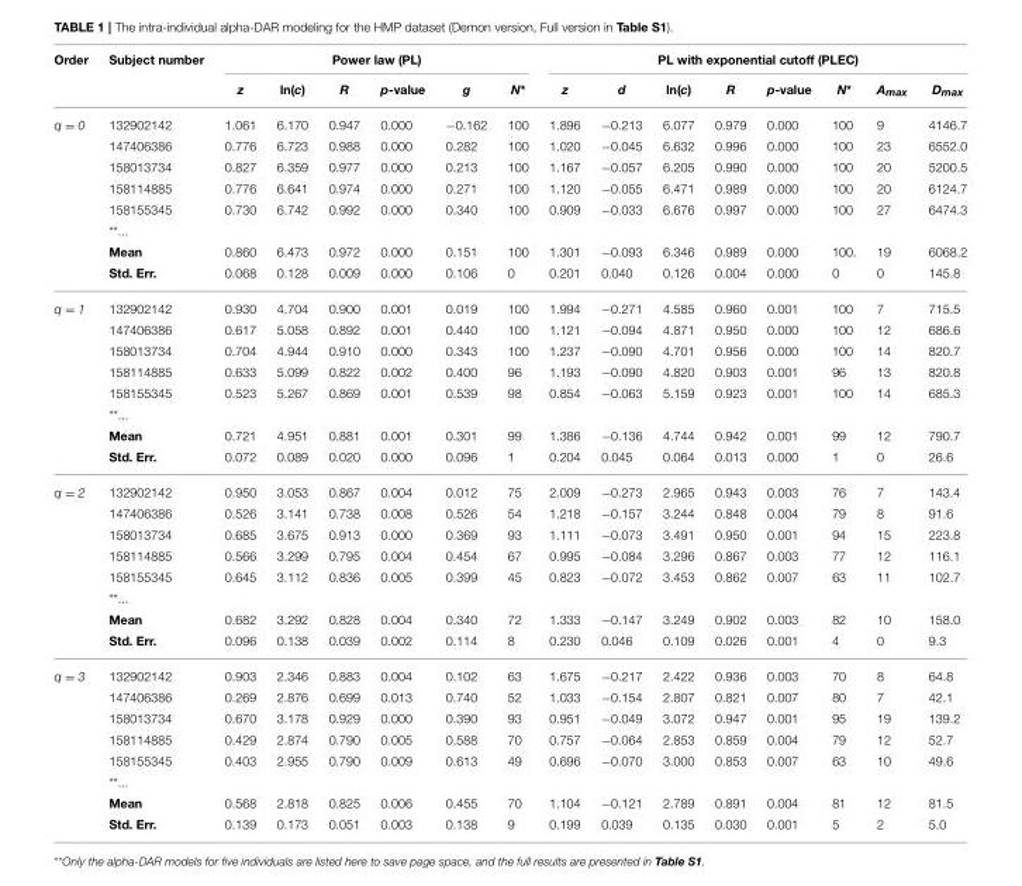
<table><thead><tr><td rowspan="2">Order</td><td rowspan="2">Subject number</td><td colspan="6">Power law (PL)</td><td colspan="8">PL with exponential cutoff (PLEC)</td></tr><tr><td>z</td><td>ln(c)</td><td>R</td><td>p-value</td><td>g</td><td>N*</td><td>z</td><td>d</td><td>ln(c)</td><td>R</td><td>p-value</td><td>N*</td><td>A<sub>max</sub></td><td>D<sub>max</sub></td></tr></thead><tbody><tr><td rowspan="8">q = 0</td><td>132902142</td><td>1.061</td><td>6.170</td><td>0.947</td><td>0.000</td><td>−0.162</td><td>100</td><td>1.896</td><td>−0.213</td><td>6.077</td><td>0.979</td><td>0.000</td><td>100</td><td>9</td><td>4146.7</td></tr><tr><td>147406386</td><td>0.776</td><td>6.723</td><td>0.988</td><td>0.000</td><td>0.282</td><td>100</td><td>1.020</td><td>−0.045</td><td>6.632</td><td>0.996</td><td>0.000</td><td>100</td><td>23</td><td>6552.0</td></tr><tr><td>158013734</td><td>0.827</td><td>6.359</td><td>0.977</td><td>0.000</td><td>0.213</td><td>100</td><td>1.167</td><td>−0.057</td><td>6.205</td><td>0.990</td><td>0.000</td><td>100</td><td>20</td><td>5200.5</td></tr><tr><td>158114885</td><td>0.776</td><td>6.641</td><td>0.974</td><td>0.000</td><td>0.271</td><td>100</td><td>1.120</td><td>−0.055</td><td>6.471</td><td>0.989</td><td>0.000</td><td>100</td><td>20</td><td>6124.7</td></tr><tr><td>158155345</td><td>0.730</td><td>6.742</td><td>0.992</td><td>0.000</td><td>0.340</td><td>100</td><td>0.909</td><td>−0.033</td><td>6.676</td><td>0.997</td><td>0.000</td><td>100</td><td>27</td><td>6474.3</td></tr><tr><td>**...</td><td></td><td></td><td></td><td></td><td></td><td></td><td></td><td></td><td></td><td></td><td></td><td></td><td></td><td></td></tr><tr><td>Mean</td><td>0.860</td><td>6.473</td><td>0.972</td><td>0.000</td><td>0.151</td><td>100</td><td>1.301</td><td>−0.093</td><td>6.346</td><td>0.989</td><td>0.000</td><td>100.</td><td>19</td><td>6068.2</td></tr><tr><td>Std. Err.</td><td>0.068</td><td>0.128</td><td>0.009</td><td>0.000</td><td>0.106</td><td>0</td><td>0.201</td><td>0.040</td><td>0.126</td><td>0.004</td><td>0.000</td><td>0</td><td>0</td><td>145.8</td></tr><tr><td rowspan="8">q = 1</td><td>132902142</td><td>0.930</td><td>4.704</td><td>0.900</td><td>0.001</td><td>0.019</td><td>100</td><td>1.994</td><td>−0.271</td><td>4.585</td><td>0.960</td><td>0.001</td><td>100</td><td>7</td><td>715.5</td></tr><tr><td>147406386</td><td>0.617</td><td>5.058</td><td>0.892</td><td>0.001</td><td>0.440</td><td>100</td><td>1.121</td><td>−0.094</td><td>4.871</td><td>0.950</td><td>0.000</td><td>100</td><td>12</td><td>686.6</td></tr><tr><td>158013734</td><td>0.704</td><td>4.944</td><td>0.910</td><td>0.000</td><td>0.343</td><td>100</td><td>1.237</td><td>−0.090</td><td>4.701</td><td>0.956</td><td>0.000</td><td>100</td><td>14</td><td>820.7</td></tr><tr><td>158114885</td><td>0.633</td><td>5.099</td><td>0.822</td><td>0.002</td><td>0.400</td><td>96</td><td>1.193</td><td>−0.090</td><td>4.820</td><td>0.903</td><td>0.001</td><td>96</td><td>13</td><td>820.8</td></tr><tr><td>158155345</td><td>0.523</td><td>5.267</td><td>0.869</td><td>0.001</td><td>0.539</td><td>98</td><td>0.854</td><td>−0.063</td><td>5.159</td><td>0.923</td><td>0.001</td><td>100</td><td>14</td><td>685.3</td></tr><tr><td>**...</td><td></td><td></td><td></td><td></td><td></td><td></td><td></td><td></td><td></td><td></td><td></td><td></td><td></td><td></td></tr><tr><td>Mean</td><td>0.721</td><td>4.951</td><td>0.881</td><td>0.001</td><td>0.301</td><td>99</td><td>1.386</td><td>−0.136</td><td>4.744</td><td>0.942</td><td>0.001</td><td>99</td><td>12</td><td>790.7</td></tr><tr><td>Std. Err.</td><td>0.072</td><td>0.089</td><td>0.020</td><td>0.000</td><td>0.096</td><td>1</td><td>0.204</td><td>0.045</td><td>0.064</td><td>0.013</td><td>0.000</td><td>1</td><td>0</td><td>26.6</td></tr><tr><td rowspan="8">q = 2</td><td>132902142</td><td>0.950</td><td>3.053</td><td>0.867</td><td>0.004</td><td>0.012</td><td>75</td><td>2.009</td><td>−0.273</td><td>2.965</td><td>0.943</td><td>0.003</td><td>76</td><td>7</td><td>143.4</td></tr><tr><td>147406386</td><td>0.526</td><td>3.141</td><td>0.738</td><td>0.008</td><td>0.526</td><td>54</td><td>1.218</td><td>−0.157</td><td>3.244</td><td>0.848</td><td>0.004</td><td>79</td><td>8</td><td>91.6</td></tr><tr><td>158013734</td><td>0.685</td><td>3.675</td><td>0.913</td><td>0.000</td><td>0.369</td><td>93</td><td>1.111</td><td>−0.073</td><td>3.491</td><td>0.950</td><td>0.001</td><td>94</td><td>15</td><td>223.8</td></tr><tr><td>158114885</td><td>0.566</td><td>3.299</td><td>0.795</td><td>0.004</td><td>0.454</td><td>67</td><td>0.995</td><td>−0.084</td><td>3.296</td><td>0.867</td><td>0.003</td><td>77</td><td>12</td><td>116.1</td></tr><tr><td>158155345</td><td>0.645</td><td>3.112</td><td>0.836</td><td>0.005</td><td>0.399</td><td>45</td><td>0.823</td><td>−0.072</td><td>3.453</td><td>0.862</td><td>0.007</td><td>63</td><td>11</td><td>102.7</td></tr><tr><td>**...</td><td></td><td></td><td></td><td></td><td></td><td></td><td></td><td></td><td></td><td></td><td></td><td></td><td></td><td></td></tr><tr><td>Mean</td><td>0.682</td><td>3.292</td><td>0.828</td><td>0.004</td><td>0.340</td><td>72</td><td>1.333</td><td>−0.147</td><td>3.249</td><td>0.902</td><td>0.003</td><td>82</td><td>10</td><td>158.0</td></tr><tr><td>Std. Err.</td><td>0.096</td><td>0.138</td><td>0.039</td><td>0.002</td><td>0.114</td><td>8</td><td>0.230</td><td>0.046</td><td>0.109</td><td>0.026</td><td>0.001</td><td>4</td><td>0</td><td>9.3</td></tr><tr><td rowspan="8">q = 3</td><td>132902142</td><td>0.903</td><td>2.346</td><td>0.883</td><td>0.004</td><td>0.102</td><td>63</td><td>1.675</td><td>−0.217</td><td>2.422</td><td>0.936</td><td>0.003</td><td>70</td><td>8</td><td>64.8</td></tr><tr><td>147406386</td><td>0.269</td><td>2.876</td><td>0.699</td><td>0.013</td><td>0.740</td><td>52</td><td>1.033</td><td>−0.154</td><td>2.807</td><td>0.821</td><td>0.007</td><td>80</td><td>7</td><td>42.1</td></tr><tr><td>158013734</td><td>0.670</td><td>3.178</td><td>0.929</td><td>0.000</td><td>0.390</td><td>93</td><td>0.951</td><td>−0.049</td><td>3.072</td><td>0.947</td><td>0.001</td><td>95</td><td>19</td><td>139.2</td></tr><tr><td>158114885</td><td>0.429</td><td>2.874</td><td>0.790</td><td>0.005</td><td>0.588</td><td>70</td><td>0.757</td><td>−0.064</td><td>2.853</td><td>0.859</td><td>0.004</td><td>79</td><td>12</td><td>52.7</td></tr><tr><td>158155345</td><td>0.403</td><td>2.955</td><td>0.790</td><td>0.009</td><td>0.613</td><td>49</td><td>0.696</td><td>−0.070</td><td>3.000</td><td>0.853</td><td>0.007</td><td>63</td><td>10</td><td>49.6</td></tr><tr><td>**...</td><td></td><td></td><td></td><td></td><td></td><td></td><td></td><td></td><td></td><td></td><td></td><td></td><td></td><td></td></tr><tr><td>Mean</td><td>0.568</td><td>2.818</td><td>0.825</td><td>0.006</td><td>0.455</td><td>70</td><td>1.104</td><td>−0.121</td><td>2.789</td><td>0.891</td><td>0.004</td><td>81</td><td>12</td><td>81.5</td></tr><tr><td>Std. Err.</td><td>0.139</td><td>0.173</td><td>0.051</td><td>0.003</td><td>0.138</td><td>9</td><td>0.199</td><td>0.039</td><td>0.135</td><td>0.030</td><td>0.001</td><td>5</td><td>2</td><td>5.0</td></tr></tbody></table>